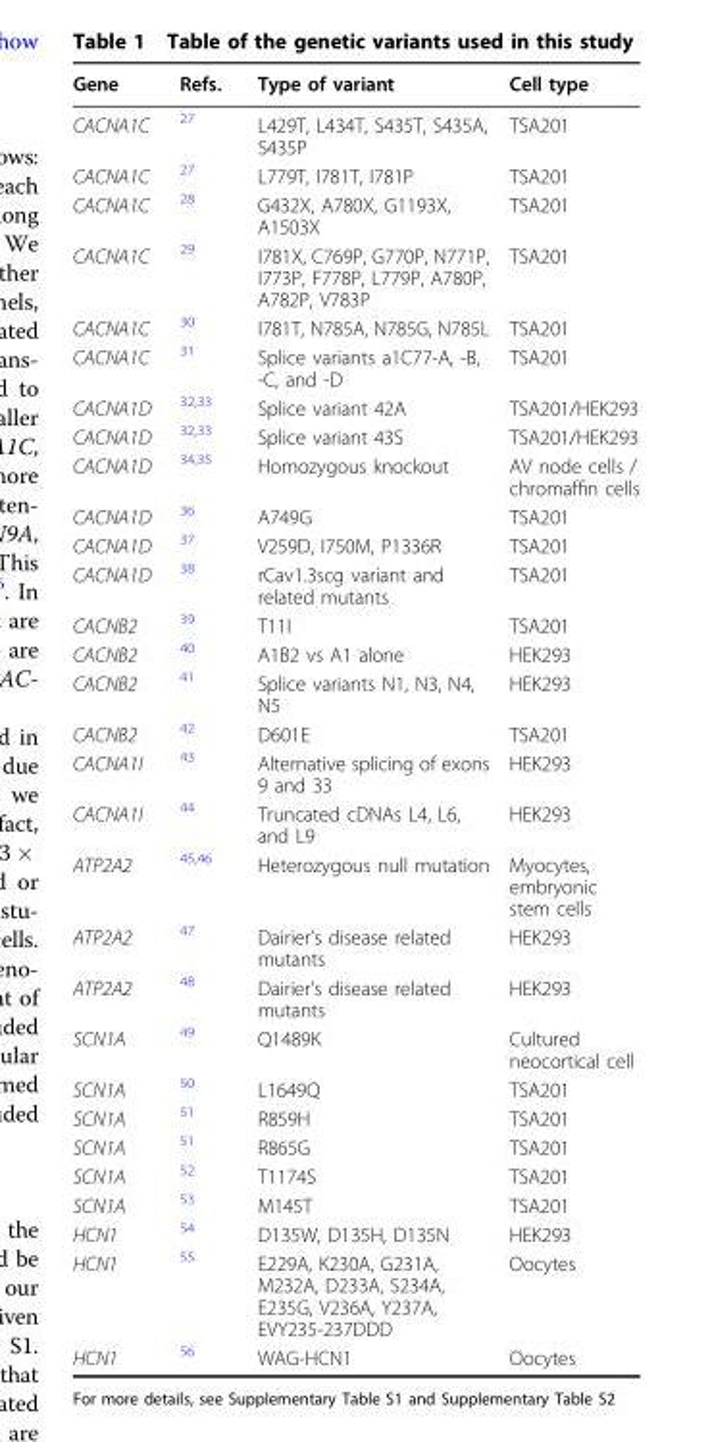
<table><thead><tr><td>Gene</td><td>Refs.</td><td>Type of variant</td><td>Cell type</td></tr></thead><tbody><tr><td>CACNA1C</td><td><sup>27</sup></td><td>L429T, L434T, S435T, S435A, S435P</td><td>TSA201</td></tr><tr><td>CACNA1C</td><td><sup>27</sup></td><td>L779T, I781T, I781P</td><td>TSA201</td></tr><tr><td>CACNA1C</td><td><sup>28</sup></td><td>G432X, A780X, G1193X, A1503X</td><td>TSA201</td></tr><tr><td>CACNA1C</td><td><sup>29</sup></td><td>I781X, C769P, G770P, N771P, I773P, F778P, L779P, A780P, A782P, V783P</td><td>TSA201</td></tr><tr><td>CACNA1C</td><td><sup>30</sup></td><td>I781T, N785A, N785G, N785L</td><td>TSA201</td></tr><tr><td>CACNA1C</td><td><sup>31</sup></td><td>Splice variants a1C77-A, -B, -C, and -D</td><td>TSA201</td></tr><tr><td>CACNA1D</td><td><sup>32,33</sup></td><td>Splice variant 42A</td><td>TSA201/HEK293</td></tr><tr><td>CACNA1D</td><td><sup>32,33</sup></td><td>Splice variant 43S</td><td>TSA201/HEK293</td></tr><tr><td>CACNA1D</td><td><sup>34,35</sup></td><td>Homozygous knockout</td><td>AV node cells / chromaffin cells</td></tr><tr><td>CACNA1D</td><td><sup>36</sup></td><td>A749G</td><td>TSA201</td></tr><tr><td>CACNA1D</td><td><sup>37</sup></td><td>V259D, I750M, P1336R</td><td>TSA201</td></tr><tr><td>CACNA1D</td><td><sup>38</sup></td><td>rCav1.3scg variant and related mutants</td><td>TSA201</td></tr><tr><td>CACNB2</td><td><sup>39</sup></td><td>T11I</td><td>TSA201</td></tr><tr><td>CACNB2</td><td><sup>40</sup></td><td>A1B2 vs A1 alone</td><td>HEK293</td></tr><tr><td>CACNB2</td><td><sup>41</sup></td><td>Splice variants N1, N3, N4, N5</td><td>HEK293</td></tr><tr><td>CACNB2</td><td><sup>42</sup></td><td>D601E</td><td>TSA201</td></tr><tr><td>CACNA1I</td><td><sup>43</sup></td><td>Alternative splicing of exons 9 and 33</td><td>HEK293</td></tr><tr><td>CACNA1I</td><td><sup>44</sup></td><td>Truncated cDNAs L4, L6, and L9</td><td>HEK293</td></tr><tr><td>ATP2A2</td><td><sup>45,46</sup></td><td>Heterozygous null mutation</td><td>Myocytes, embryonic stem cells</td></tr><tr><td>ATP2A2</td><td><sup>47</sup></td><td>Dairier’s disease related mutants</td><td>HEK293</td></tr><tr><td>ATP2A2</td><td><sup>48</sup></td><td>Dairier’s disease related mutants</td><td>HEK293</td></tr><tr><td>SCN1A</td><td><sup>49</sup></td><td>Q1489K</td><td>Cultured neocortical cell</td></tr><tr><td>SCN1A</td><td><sup>50</sup></td><td>L1649Q</td><td>TSA201</td></tr><tr><td>SCN1A</td><td><sup>51</sup></td><td>R859H</td><td>TSA201</td></tr><tr><td>SCN1A</td><td><sup>51</sup></td><td>R865G</td><td>TSA201</td></tr><tr><td>SCN1A</td><td><sup>52</sup></td><td>T1174S</td><td>TSA201</td></tr><tr><td>SCN1A</td><td><sup>53</sup></td><td>M145T</td><td>TSA201</td></tr><tr><td>HCN1</td><td><sup>54</sup></td><td>D135W, D135H, D135N</td><td>HEK293</td></tr><tr><td>HCN1</td><td><sup>55</sup></td><td>E229A, K230A, G231A, M232A, D233A, S234A, E235G, V236A, Y237A, EVY235-237DDD</td><td>Oocytes</td></tr><tr><td>HCN1</td><td><sup>56</sup></td><td>WAG-HCN1</td><td>Oocytes</td></tr></tbody></table>